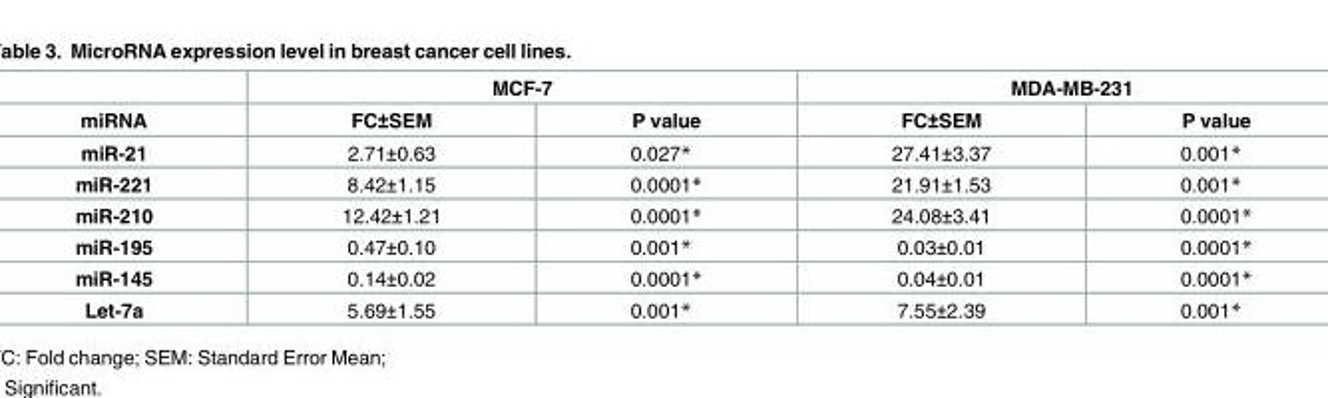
<table><thead><tr><td rowspan="2">miRNA</td><td colspan="2">MCF-7</td><td colspan="2">MDA-MB-231</td></tr><tr><td>FC±SEM</td><td>P value</td><td>FC±SEM</td><td>P value</td></tr></thead><tbody><tr><td>miR-21</td><td>2.71±0.63</td><td>0.027*</td><td>27.41±3.37</td><td>0.001*</td></tr><tr><td>miR-221</td><td>8.42±1.15</td><td>0.0001*</td><td>21.91±1.53</td><td>0.001*</td></tr><tr><td>miR-210</td><td>12.42±1.21</td><td>0.0001*</td><td>24.08±3.41</td><td>0.0001*</td></tr><tr><td>miR-195</td><td>0.47±0.10</td><td>0.001*</td><td>0.03±0.01</td><td>0.0001*</td></tr><tr><td>miR-145</td><td>0.14±0.02</td><td>0.0001*</td><td>0.04±0.01</td><td>0.0001*</td></tr><tr><td>Let-7a</td><td>5.69±1.55</td><td>0.001*</td><td>7.55±2.39</td><td>0.001*</td></tr></tbody></table>